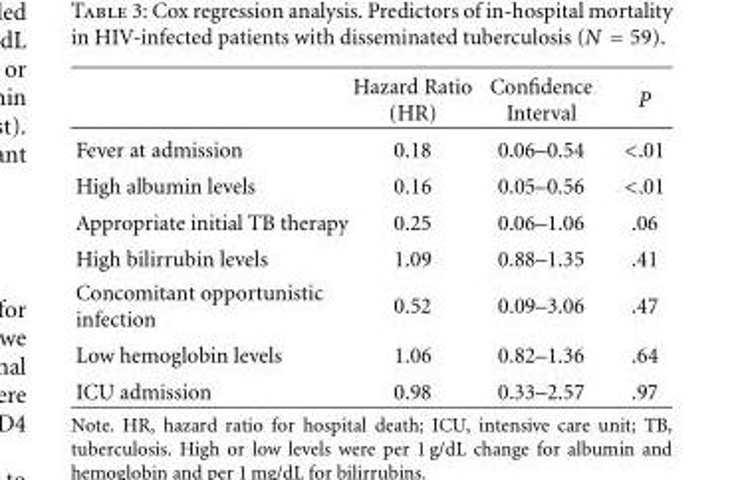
<table><thead><tr><td></td><td>Hazard Ratio (HR)</td><td>Confidence Interval</td><td>P</td></tr></thead><tbody><tr><td>Fever at admission</td><td>0.18</td><td>0.06–0.54</td><td>&lt;.01</td></tr><tr><td>High albumin levels</td><td>0.16</td><td>0.05–0.56</td><td>&lt;.01</td></tr><tr><td>Appropriate initial TB therapy</td><td>0.25</td><td>0.06–1.06</td><td>.06</td></tr><tr><td>High bilirrubin levels</td><td>1.09</td><td>0.88–1.35</td><td>.41</td></tr><tr><td>Concomitant opportunistic infection</td><td>0.52</td><td>0.09–3.06</td><td>.47</td></tr><tr><td>Low hemoglobin levels</td><td>1.06</td><td>0.82–1.36</td><td>.64</td></tr><tr><td>ICU admission</td><td>0.98</td><td>0.33–2.57</td><td>.97</td></tr></tbody></table>